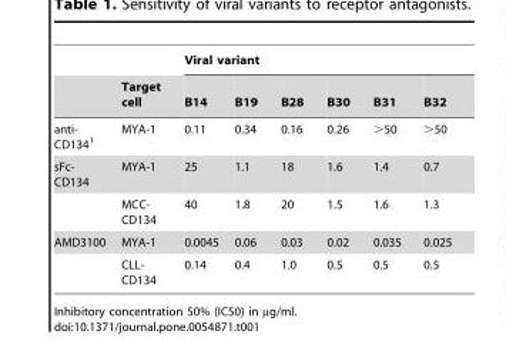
<table><thead><tr><td rowspan="2"></td><td rowspan="2">Target cell</td><td colspan="6">Viral variant</td></tr><tr><td>B14</td><td>B19</td><td>B28</td><td>B30</td><td>B31</td><td>B32</td></tr></thead><tbody><tr><td>anti- CD134<sup>1</sup></td><td>MYA-1</td><td>0.11</td><td>0.34</td><td>0.16</td><td>0.26</td><td>&gt;50</td><td>&gt;50</td></tr><tr><td rowspan="2">sFc- CD134</td><td>MYA-1</td><td>25</td><td>1.1</td><td>18</td><td>1.6</td><td>1.4</td><td>0.7</td></tr><tr><td>MCC- CD134</td><td>40</td><td>1.8</td><td>20</td><td>1.5</td><td>1.6</td><td>1.3</td></tr><tr><td rowspan="2">AMD3100</td><td>MYA-1</td><td>0.0045</td><td>0.06</td><td>0.03</td><td>0.02</td><td>0.035</td><td>0.025</td></tr><tr><td>CLL- CD134</td><td>0.14</td><td>0.4</td><td>1.0</td><td>0.5</td><td>0.5</td><td>0.5</td></tr></tbody></table>